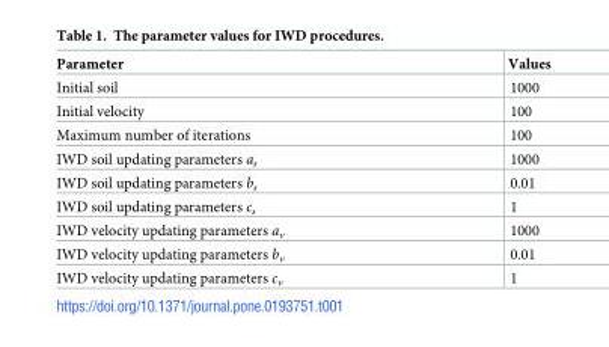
<table><thead><tr><td>Parameter</td><td>Values</td></tr></thead><tbody><tr><td>Initial soil</td><td>1000</td></tr><tr><td>Initial velocity</td><td>100</td></tr><tr><td>Maximum number of iterations</td><td>100</td></tr><tr><td>IWD soil updating parameters a<sub>s</sub></td><td>1000</td></tr><tr><td>IWD soil updating parameters b<sub>s</sub></td><td>0.01</td></tr><tr><td>IWD soil updating parameters c<sub>s</sub></td><td>1</td></tr><tr><td>IWD velocity updating parameters a<sub>v</sub></td><td>1000</td></tr><tr><td>IWD velocity updating parameters b<sub>v</sub></td><td>0.01</td></tr><tr><td>IWD velocity updating parameters c<sub>v</sub></td><td>1</td></tr></tbody></table>